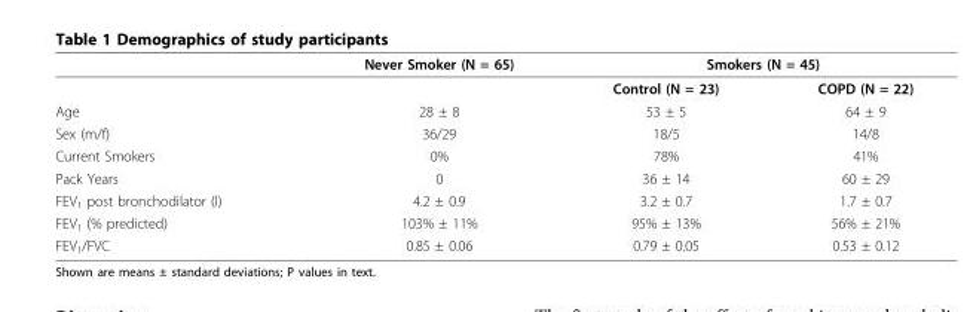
<table><thead><tr><td rowspan="2"></td><td rowspan="2">Never Smoker (N = 65)</td><td colspan="2">Smokers (N = 45)</td></tr><tr><td>Control (N = 23)</td><td>COPD (N = 22)</td></tr></thead><tbody><tr><td>Age</td><td>28 ± 8</td><td>53 ± 5</td><td>64 ± 9</td></tr><tr><td>Sex (m/f)</td><td>36/29</td><td>18/5</td><td>14/8</td></tr><tr><td>Current Smokers</td><td>0%</td><td>78%</td><td>41%</td></tr><tr><td>Pack Years</td><td>0</td><td>36 ± 14</td><td>60 ± 29</td></tr><tr><td>FEV<sub>1</sub> post bronchodilator (l)</td><td>4.2 ± 0.9</td><td>3.2 ± 0.7</td><td>1.7 ± 0.7</td></tr><tr><td>FEV<sub>1</sub> (% predicted)</td><td>103% ± 11%</td><td>95% ± 13%</td><td>56% ± 21%</td></tr><tr><td>FEV<sub>1</sub>/FVC</td><td>0.85 ± 0.06</td><td>0.79 ± 0.05</td><td>0.53 ± 0.12</td></tr></tbody></table>